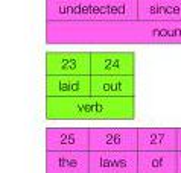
<table><tbody><tr><td>23</td><td>24</td></tr><tr><td>laid</td><td>out</td></tr><tr><td colspan="2">verb</td></tr></tbody></table>